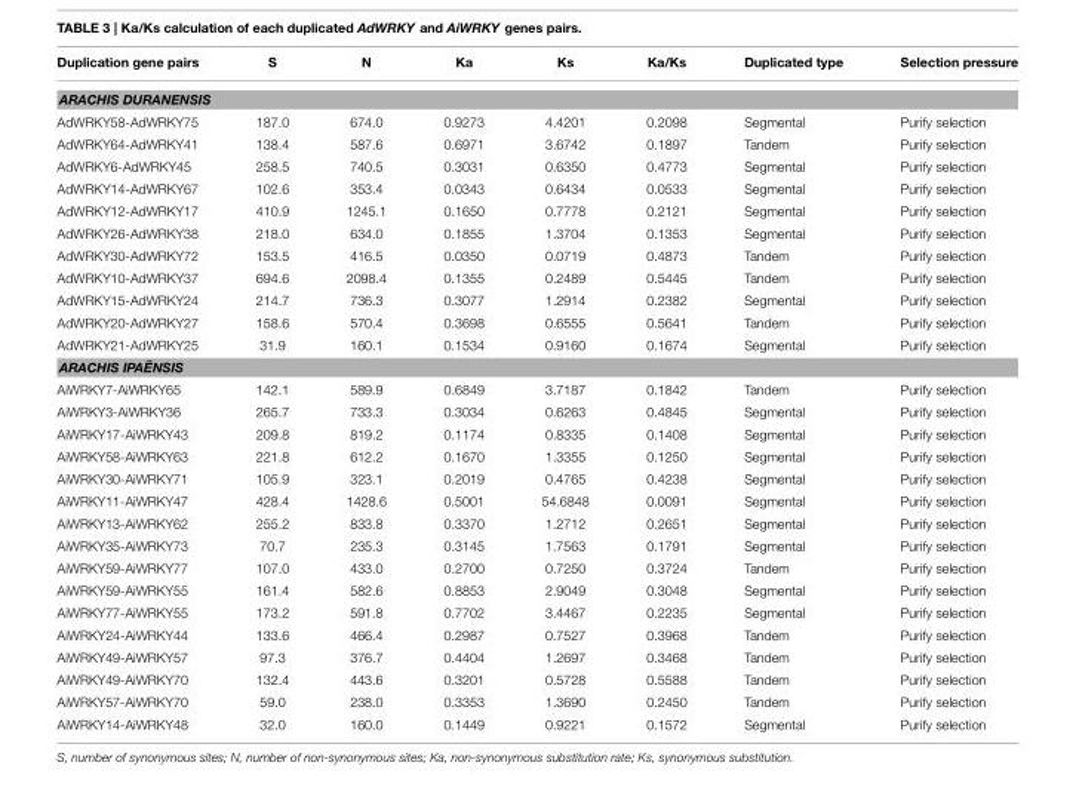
<table><thead><tr><td>Duplication gene pairs</td><td>S</td><td>N</td><td>Ka</td><td>Ks</td><td>Ka/Ks</td><td>Duplicated type</td><td>Selection pressure</td></tr></thead><tbody><tr><td colspan="8">ARACHIS DURANENSIS</td></tr><tr><td>AdWRKY58-AdWRKY75</td><td>187.0</td><td>674.0</td><td>0.9273</td><td>4.4201</td><td>0.2098</td><td>Segmental</td><td>Purify selection</td></tr><tr><td>AdWRKY64-AdWRKY41</td><td>138.4</td><td>587.6</td><td>0.6971</td><td>3.6742</td><td>0.1897</td><td>Tandem</td><td>Purify selection</td></tr><tr><td>AdWRKY6-AdWRKY45</td><td>258.5</td><td>740.5</td><td>0.3031</td><td>0.6350</td><td>0.4773</td><td>Segmental</td><td>Purify selection</td></tr><tr><td>AdWRKY14-AdWRKY67</td><td>102.6</td><td>353.4</td><td>0.0343</td><td>0.6434</td><td>0.0533</td><td>Segmental</td><td>Purify selection</td></tr><tr><td>AdWRKY12-AdWRKY17</td><td>410.9</td><td>1245.1</td><td>0.1650</td><td>0.7778</td><td>0.2121</td><td>Segmental</td><td>Purify selection</td></tr><tr><td>AdWRKY26-AdWRKY38</td><td>218.0</td><td>634.0</td><td>0.1855</td><td>1.3704</td><td>0.1353</td><td>Segmental</td><td>Purify selection</td></tr><tr><td>AdWRKY30-AdWRKY72</td><td>153.5</td><td>416.5</td><td>0.0350</td><td>0.0719</td><td>0.4873</td><td>Tandem</td><td>Purify selection</td></tr><tr><td>AdWRKY10-AdWRKY37</td><td>694.6</td><td>2098.4</td><td>0.1355</td><td>0.2489</td><td>0.5445</td><td>Tandem</td><td>Purify selection</td></tr><tr><td>AdWRKY15-AdWRKY24</td><td>214.7</td><td>736.3</td><td>0.3077</td><td>1.2914</td><td>0.2382</td><td>Segmental</td><td>Purify selection</td></tr><tr><td>AdWRKY20-AdWRKY27</td><td>158.6</td><td>570.4</td><td>0.3698</td><td>0.6555</td><td>0.5641</td><td>Tandem</td><td>Purify selection</td></tr><tr><td>AdWRKY21-AdWRKY25</td><td>31.9</td><td>160.1</td><td>0.1534</td><td>0.9160</td><td>0.1674</td><td>Segmental</td><td>Purify selection</td></tr><tr><td colspan="8">ARACHIS IPAËNSIS</td></tr><tr><td>AiWRKY7-AiWRKY65</td><td>142.1</td><td>589.9</td><td>0.6849</td><td>3.7187</td><td>0.1842</td><td>Tandem</td><td>Purify selection</td></tr><tr><td>AiWRKY3-AiWRKY36</td><td>265.7</td><td>733.3</td><td>0.3034</td><td>0.6263</td><td>0.4845</td><td>Segmental</td><td>Purify selection</td></tr><tr><td>AiWRKY17-AiWRKY43</td><td>209.8</td><td>819.2</td><td>0.1174</td><td>0.8335</td><td>0.1408</td><td>Segmental</td><td>Purify selection</td></tr><tr><td>AiWRKY58-AiWRKY63</td><td>221.8</td><td>612.2</td><td>0.1670</td><td>1.3355</td><td>0.1250</td><td>Segmental</td><td>Purify selection</td></tr><tr><td>AiWRKY30-AiWRKY71</td><td>105.9</td><td>323.1</td><td>0.2019</td><td>0.4765</td><td>0.4238</td><td>Segmental</td><td>Purify selection</td></tr><tr><td>AiWRKY11-AiWRKY47</td><td>428.4</td><td>1428.6</td><td>0.5001</td><td>54.6848</td><td>0.0091</td><td>Segmental</td><td>Purify selection</td></tr><tr><td>AiWRKY13-AiWRKY62</td><td>255.2</td><td>833.8</td><td>0.3370</td><td>1.2712</td><td>0.2651</td><td>Segmental</td><td>Purify selection</td></tr><tr><td>AiWRKY35-AiWRKY73</td><td>70.7</td><td>235.3</td><td>0.3145</td><td>1.7563</td><td>0.1791</td><td>Segmental</td><td>Purify selection</td></tr><tr><td>AiWRKY59-AiWRKY77</td><td>107.0</td><td>433.0</td><td>0.2700</td><td>0.7250</td><td>0.3724</td><td>Tandem</td><td>Purify selection</td></tr><tr><td>AiWRKY59-AiWRKY55</td><td>161.4</td><td>582.6</td><td>0.8853</td><td>2.9049</td><td>0.3048</td><td>Segmental</td><td>Purify selection</td></tr><tr><td>AiWRKY77-AiWRKY55</td><td>173.2</td><td>591.8</td><td>0.7702</td><td>3.4467</td><td>0.2235</td><td>Segmental</td><td>Purify selection</td></tr><tr><td>AiWRKY24-AiWRKY44</td><td>133.6</td><td>466.4</td><td>0.2987</td><td>0.7527</td><td>0.3968</td><td>Tandem</td><td>Purify selection</td></tr><tr><td>AiWRKY49-AiWRKY57</td><td>97.3</td><td>376.7</td><td>0.4404</td><td>1.2697</td><td>0.3468</td><td>Tandem</td><td>Purify selection</td></tr><tr><td>AiWRKY49-AiWRKY70</td><td>132.4</td><td>443.6</td><td>0.3201</td><td>0.5728</td><td>0.5588</td><td>Tandem</td><td>Purify selection</td></tr><tr><td>AiWRKY57-AiWRKY70</td><td>59.0</td><td>238.0</td><td>0.3353</td><td>1.3690</td><td>0.2450</td><td>Tandem</td><td>Purify selection</td></tr><tr><td>AiWRKY14-AiWRKY48</td><td>32.0</td><td>160.0</td><td>0.1449</td><td>0.9221</td><td>0.1572</td><td>Segmental</td><td>Purify selection</td></tr></tbody></table>